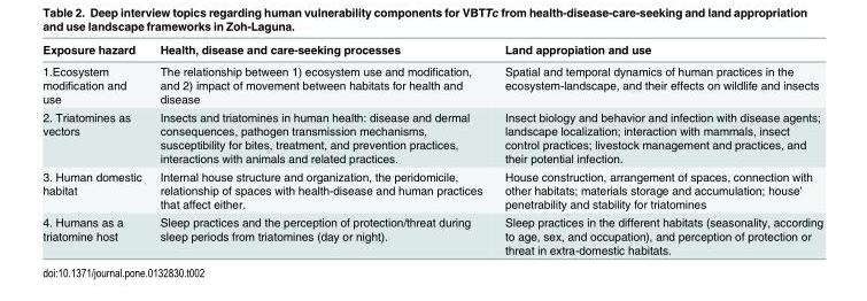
<table><thead><tr><td>Exposure hazard</td><td>Health, disease and care-seeking processes</td><td>Land appropiation and use</td></tr></thead><tbody><tr><td>1.Ecosystem modification and use</td><td>The relationship between 1) ecosystem use and modification, and 2) impact of movement between habitats for health and disease</td><td>Spatial and temporal dynamics of human practices in the ecosystem-landscape, and their effects on wildlife and insects</td></tr><tr><td>2. Triatomines as vectors</td><td>Insects and triatomines in human health: disease and dermal consequences, pathogen transmission mechanisms, susceptibility for bites, treatment, and prevention practices, interactions with animals and related practices.</td><td>Insect biology and behavior and infection with disease agents; landscape localization; interaction with mammals, insect control practices; livestock management and practices, and their potential infection.</td></tr><tr><td>3. Human domestic habitat</td><td>Internal house structure and organization, the peridomicile, relationship of spaces with health-disease and human practices that affect either.</td><td>House construction, arrangement of spaces, connection with other habitats; materials storage and accumulation; house’ penetrability and stability for triatomines</td></tr><tr><td>4. Humans as a triatomine host</td><td>Sleep practices and the perception of protection/threat during sleep periods from triatomines (day or night).</td><td>Sleep practices in the different habitats (seasonality, according to age, sex, and occupation), and perception of protection or threat in extra-domestic habitats.</td></tr></tbody></table>